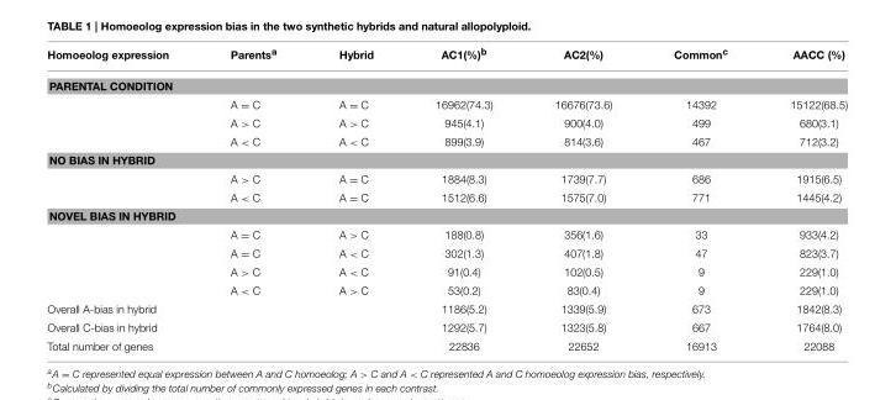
<table><thead><tr><td>Homoeolog expression</td><td>Parents<sup>a</sup></td><td>Hybrid</td><td>AC1(%)<sup>b</sup></td><td>AC2(%)</td><td>Common<sup>c</sup></td><td>AACC (%)</td></tr></thead><tbody><tr><td colspan="7">PARENTAL CONDITION</td></tr><tr><td></td><td>A = C</td><td>A = C</td><td>16962(74.3)</td><td>16676(73.6)</td><td>14392</td><td>15122(68.5)</td></tr><tr><td></td><td>A &gt; C</td><td>A &gt; C</td><td>945(4.1)</td><td>900(4.0)</td><td>499</td><td>680(3.1)</td></tr><tr><td></td><td>A &lt; C</td><td>A &lt; C</td><td>899(3.9)</td><td>814(3.6)</td><td>467</td><td>712(3.2)</td></tr><tr><td colspan="7">NO BIAS IN HYBRID</td></tr><tr><td></td><td>A &gt; C</td><td>A = C</td><td>1884(8.3)</td><td>1739(7.7)</td><td>686</td><td>1915(6.5)</td></tr><tr><td></td><td>A &lt; C</td><td>A = C</td><td>1512(6.6)</td><td>1575(7.0)</td><td>771</td><td>1445(4.2)</td></tr><tr><td colspan="7">NOVEL BIAS IN HYBRID</td></tr><tr><td></td><td>A = C</td><td>A &gt; C</td><td>188(0.8)</td><td>356(1.6)</td><td>33</td><td>933(4.2)</td></tr><tr><td></td><td>A = C</td><td>A &lt; C</td><td>302(1.3)</td><td>407(1.8)</td><td>47</td><td>823(3.7)</td></tr><tr><td></td><td>A &gt; C</td><td>A &lt; C</td><td>91(0.4)</td><td>102(0.5)</td><td>9</td><td>229(1.0)</td></tr><tr><td></td><td>A &lt; C</td><td>A &gt; C</td><td>53(0.2)</td><td>83(0.4)</td><td>9</td><td>229(1.0)</td></tr><tr><td>Overall A-bias in hybrid</td><td></td><td></td><td>1186(5.2)</td><td>1339(5.9)</td><td>673</td><td>1842(8.3)</td></tr><tr><td>Overall C-bias in hybrid</td><td></td><td></td><td>1292(5.7)</td><td>1323(5.8)</td><td>667</td><td>1764(8.0)</td></tr><tr><td>Total number of genes</td><td></td><td></td><td>22836</td><td>22652</td><td>16913</td><td>22088</td></tr></tbody></table>